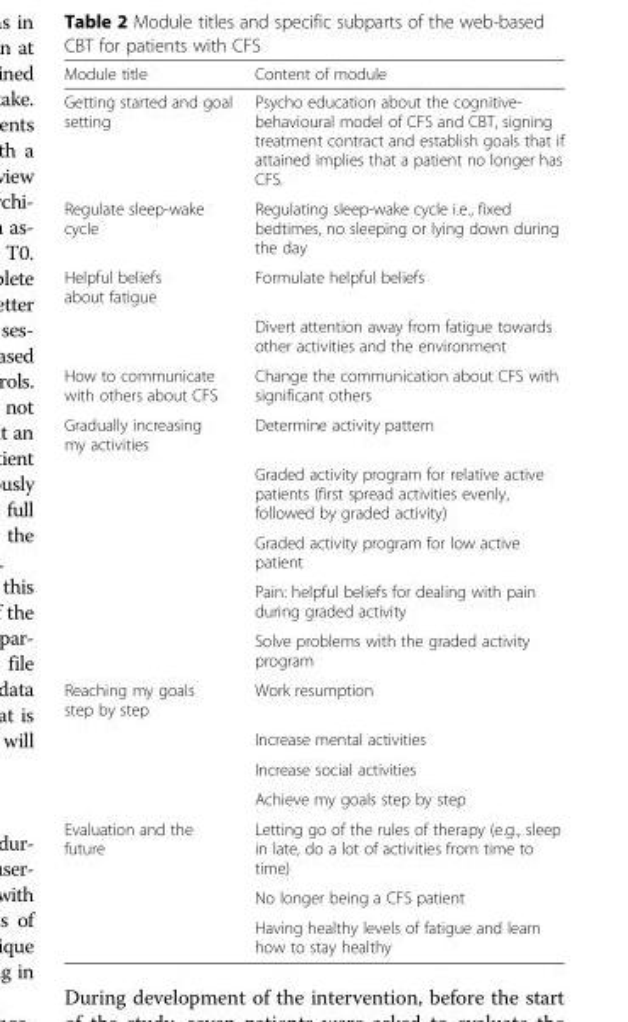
<table><thead><tr><td>Module title</td><td>Content of module</td></tr></thead><tbody><tr><td>Getting started and goal setting</td><td>Psycho education about the cognitive- behavioural model of CFS and CBT, signing treatment contract and establish goals that if attained implies that a patient no longer has CFS.</td></tr><tr><td>Regulate sleep-wake cycle</td><td>Regulating sleep-wake cycle i.e., fixed bedtimes, no sleeping or lying down during the day</td></tr><tr><td rowspan="2">Helpful beliefs about fatigue</td><td>Formulate helpful beliefs</td></tr><tr><td>Divert attention away from fatigue towards other activities and the environment</td></tr><tr><td>How to communicate with others about CFS</td><td>Change the communication about CFS with significant others</td></tr><tr><td rowspan="5">Gradually increasing my activities</td><td>Determine activity pattern</td></tr><tr><td>Graded activity program for relative active patients (first spread activities evenly, followed by graded activity)</td></tr><tr><td>Graded activity program for low active patient</td></tr><tr><td>Pain: helpful beliefs for dealing with pain during graded activity</td></tr><tr><td>Solve problems with the graded activity program</td></tr><tr><td rowspan="4">Reaching my goals step by step</td><td>Work resumption</td></tr><tr><td>Increase mental activities</td></tr><tr><td>Increase social activities</td></tr><tr><td>Achieve my goals step by step</td></tr><tr><td rowspan="3">Evaluation and the future</td><td>Letting go of the rules of therapy (e.g., sleep in late, do a lot of activities from time to time)</td></tr><tr><td>No longer being a CFS patient</td></tr><tr><td>Having healthy levels of fatigue and learn how to stay healthy</td></tr></tbody></table>